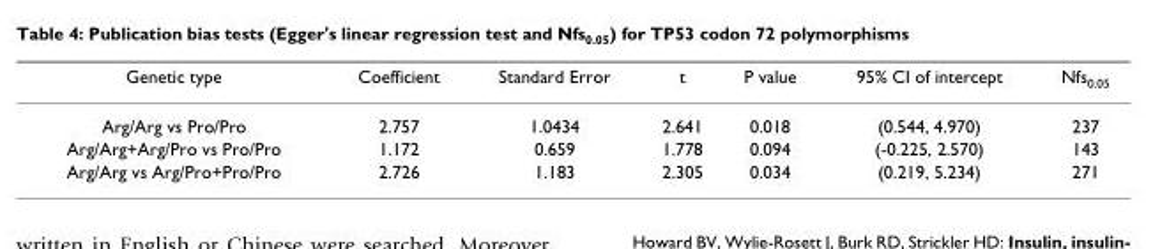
<table><thead><tr><td>Genetic type</td><td>Coefficient</td><td>Standard Error</td><td>t</td><td>P value</td><td>95% CI of intercept</td><td>Nfs<sub>0.05</sub></td></tr></thead><tbody><tr><td>Arg/Arg vs Pro/Pro</td><td>2.757</td><td>1.0434</td><td>2.641</td><td>0.018</td><td>(0.544, 4.970)</td><td>237</td></tr><tr><td>Arg/Arg+Arg/Pro vs Pro/Pro</td><td>1.172</td><td>0.659</td><td>1.778</td><td>0.094</td><td>(-0.225, 2.570)</td><td>143</td></tr><tr><td>Arg/Arg vs Arg/Pro+Pro/Pro</td><td>2.726</td><td>1.183</td><td>2.305</td><td>0.034</td><td>(0.219, 5.234)</td><td>271</td></tr></tbody></table>